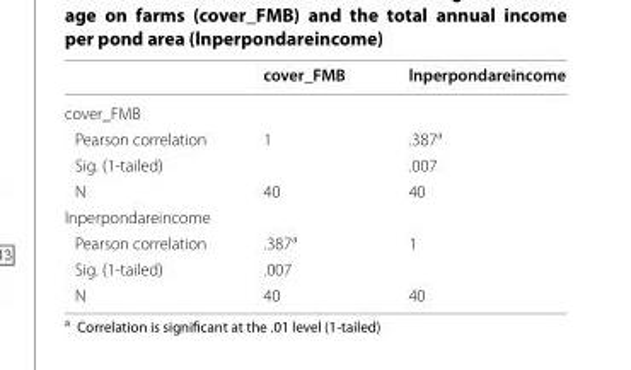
<table><thead><tr><td></td><td>cover_FMB</td><td>lnperpondareincome</td></tr></thead><tbody><tr><td colspan="3">cover_FMB</td></tr><tr><td>Pearson correlation</td><td>1</td><td>.387<sup>a</sup></td></tr><tr><td>Sig. (1-tailed)</td><td></td><td>.007</td></tr><tr><td>N</td><td>40</td><td>40</td></tr><tr><td colspan="3">lnperpondareincome</td></tr><tr><td>Pearson correlation</td><td>.387<sup>a</sup></td><td>1</td></tr><tr><td>Sig. (1-tailed)</td><td>.007</td><td></td></tr><tr><td>N</td><td>40</td><td>40</td></tr></tbody></table>